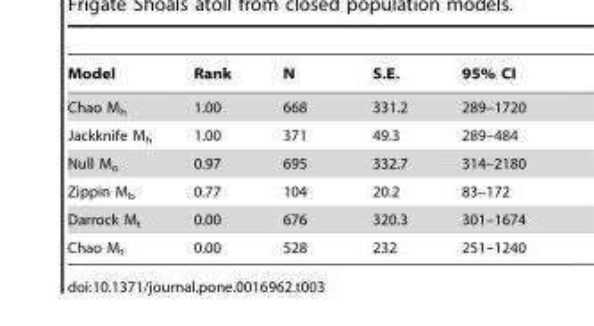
<table><thead><tr><td>Model</td><td>Rank</td><td>N</td><td>S.E.</td><td>95% CI</td></tr></thead><tbody><tr><td>Chao M<sub>h</sub></td><td>1.00</td><td>668</td><td>331.2</td><td>289–1720</td></tr><tr><td>Jackknife M<sub>h</sub></td><td>1.00</td><td>371</td><td>49.3</td><td>289–484</td></tr><tr><td>Null M<sub>o</sub></td><td>0.97</td><td>695</td><td>332.7</td><td>314–2180</td></tr><tr><td>Zippin M<sub>b</sub></td><td>0.77</td><td>104</td><td>20.2</td><td>83–172</td></tr><tr><td>Darrock M<sub>t</sub></td><td>0.00</td><td>676</td><td>320.3</td><td>301–1674</td></tr><tr><td>Chao M<sub>t</sub></td><td>0.00</td><td>528</td><td>232</td><td>251–1240</td></tr></tbody></table>